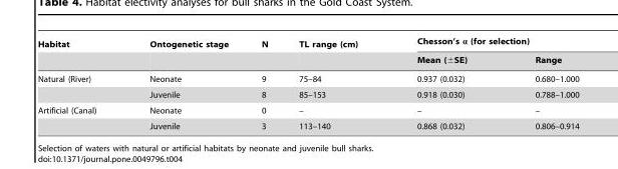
<table><thead><tr><td rowspan="2">Habitat</td><td rowspan="2">Ontogenetic stage</td><td rowspan="2">N</td><td rowspan="2">TL range (cm)</td><td colspan="2">Chesson’s α (for selection)</td></tr><tr><td>Mean (±SE)</td><td>Range</td></tr></thead><tbody><tr><td rowspan="2">Natural (River)</td><td>Neonate</td><td>9</td><td>75–84</td><td>0.937 (0.032)</td><td>0.680–1.000</td></tr><tr><td>Juvenile</td><td>8</td><td>85–153</td><td>0.918 (0.030)</td><td>0.788–1.000</td></tr><tr><td rowspan="2">Artificial (Canal)</td><td>Neonate</td><td>0</td><td>–</td><td>–</td><td>–</td></tr><tr><td>Juvenile</td><td>3</td><td>113–140</td><td>0.868 (0.032)</td><td>0.806–0.914</td></tr></tbody></table>